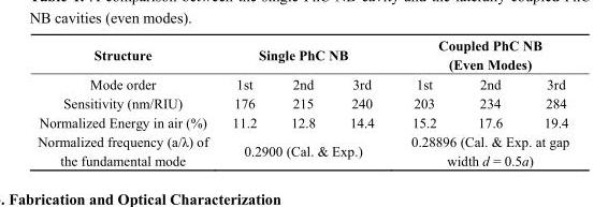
<table><thead><tr><td rowspan="2">Structure Mode order</td><td colspan="3">Single PhC NB</td><td colspan="3">Coupled PhC NB (Even Modes)</td></tr><tr><td>1st</td><td>2nd</td><td>3rd</td><td>1st</td><td>2nd</td><td>3rd</td></tr></thead><tbody><tr><td>Sensitivity (nm/RIU)</td><td>176</td><td>215</td><td>240</td><td>203</td><td>234</td><td>284</td></tr><tr><td>Normalized Energy in air (%)</td><td>11.2</td><td>12.8</td><td>14.4</td><td>15.2</td><td>17.6</td><td>19.4</td></tr><tr><td>Normalized frequency (a/λ) of the fundamental mode</td><td colspan="3">0.2900 (Cal. &amp; Exp.)</td><td colspan="3">0.28896 (Cal. &amp; Exp. at gap width d = 0.5a)</td></tr></tbody></table>